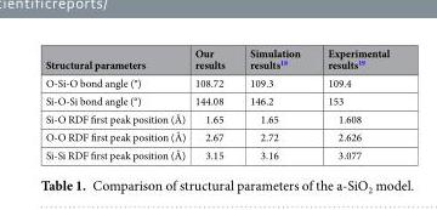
<table><thead><tr><td>Structural parameters</td><td>Our results</td><td>Simulation results<sup>18</sup></td><td>Experimental results<sup>19</sup></td></tr></thead><tbody><tr><td>O-Si-O bond angle (°)</td><td>108.72</td><td>109.3</td><td>109.4</td></tr><tr><td>Si-O-Si bond angle (°)</td><td>144.08</td><td>146.2</td><td>153</td></tr><tr><td>Si-O RDF first peak position (Å)</td><td>1.65</td><td>1.65</td><td>1.608</td></tr><tr><td>O-O RDF first peak position (Å)</td><td>2.67</td><td>2.72</td><td>2.626</td></tr><tr><td>Si-Si RDF first peak position (Å)</td><td>3.15</td><td>3.16</td><td>3.077</td></tr></tbody></table>